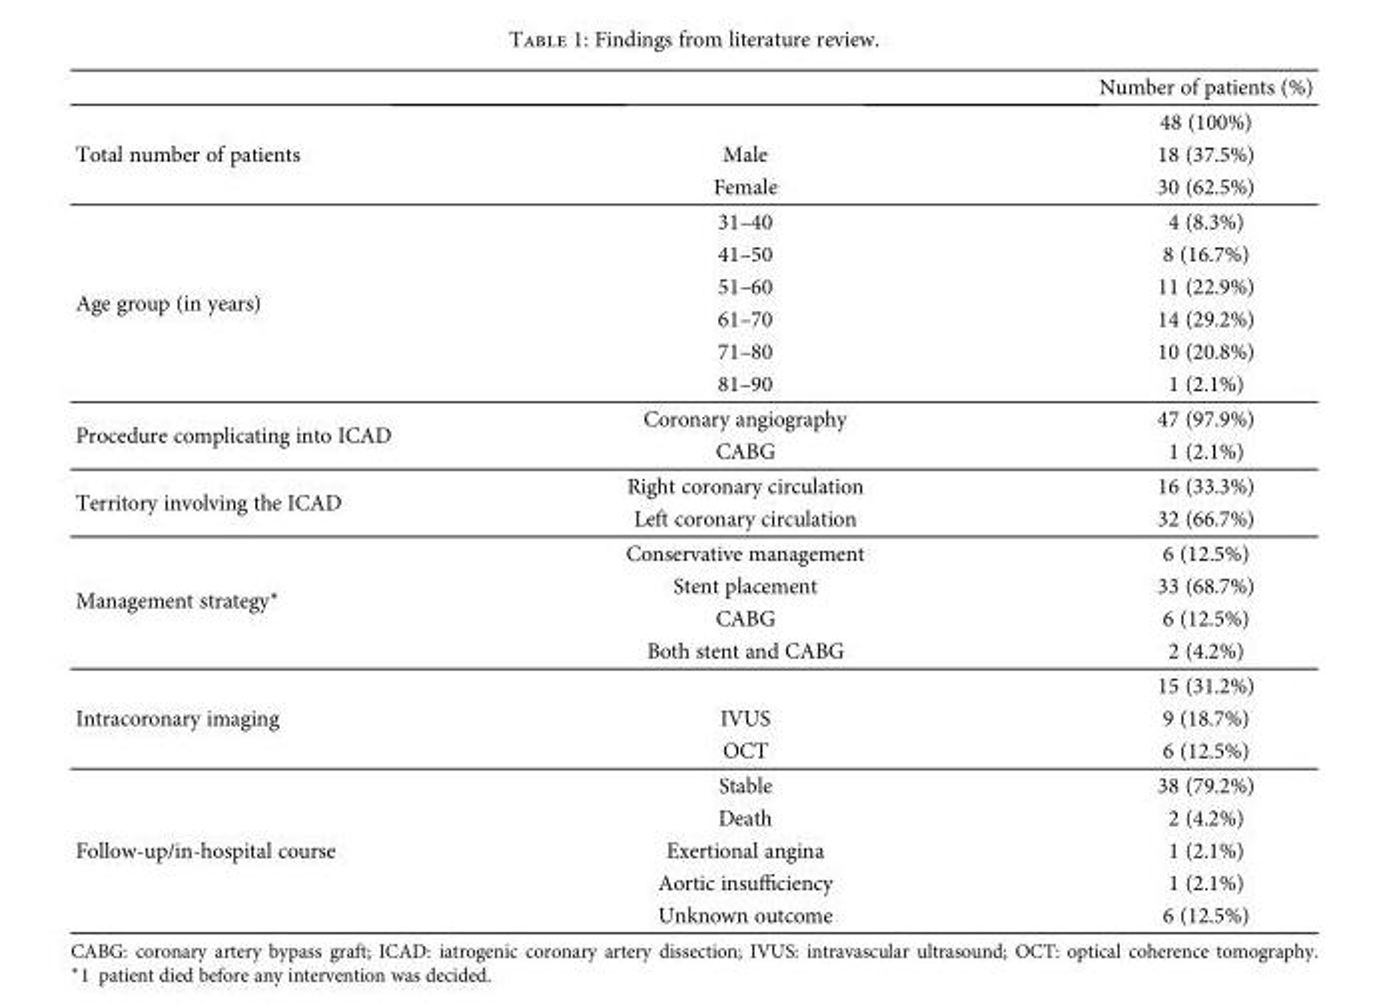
<table><thead><tr><td></td><td></td><td>Number of patients (%)</td></tr></thead><tbody><tr><td rowspan="3">Total number of patients</td><td></td><td>48 (100%)</td></tr><tr><td>Male</td><td>18 (37.5%)</td></tr><tr><td>Female</td><td>30 (62.5%)</td></tr><tr><td rowspan="6">Age group (in years)</td><td>31–40</td><td>4 (8.3%)</td></tr><tr><td>41–50</td><td>8 (16.7%)</td></tr><tr><td>51–60</td><td>11 (22.9%)</td></tr><tr><td>61–70</td><td>14 (29.2%)</td></tr><tr><td>71–80</td><td>10 (20.8%)</td></tr><tr><td>81–90</td><td>1 (2.1%)</td></tr><tr><td rowspan="2">Procedure complicating into ICAD</td><td>Coronary angiography</td><td>47 (97.9%)</td></tr><tr><td>CABG</td><td>1 (2.1%)</td></tr><tr><td rowspan="2">Territory involving the ICAD</td><td>Right coronary circulation</td><td>16 (33.3%)</td></tr><tr><td>Left coronary circulation</td><td>32 (66.7%)</td></tr><tr><td rowspan="4">Management strategy∗</td><td>Conservative management</td><td>6 (12.5%)</td></tr><tr><td>Stent placement</td><td>33 (68.7%)</td></tr><tr><td>CABG</td><td>6 (12.5%)</td></tr><tr><td>Both stent and CABG</td><td>2 (4.2%)</td></tr><tr><td rowspan="3">Intracoronary imaging</td><td></td><td>15 (31.2%)</td></tr><tr><td>IVUS</td><td>9 (18.7%)</td></tr><tr><td>OCT</td><td>6 (12.5%)</td></tr><tr><td rowspan="5">Follow-up/in-hospital course</td><td>Stable</td><td>38 (79.2%)</td></tr><tr><td>Death</td><td>2 (4.2%)</td></tr><tr><td>Exertional angina</td><td>1 (2.1%)</td></tr><tr><td>Aortic insufficiency</td><td>1 (2.1%)</td></tr><tr><td>Unknown outcome</td><td>6 (12.5%)</td></tr></tbody></table>